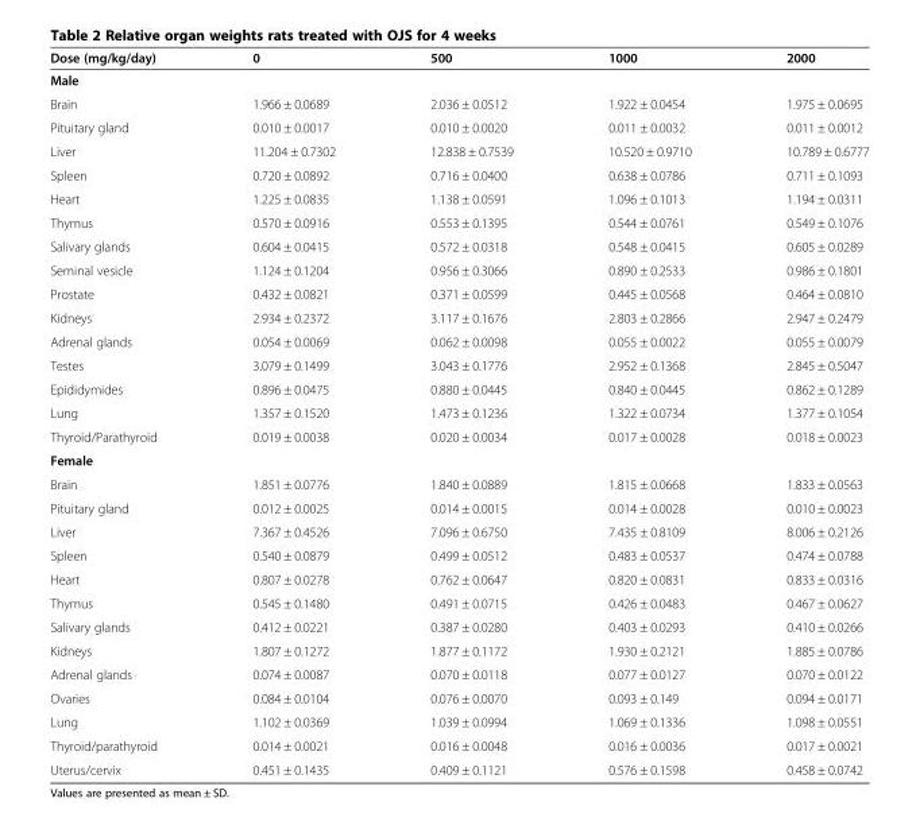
<table><thead><tr><td>Dose (mg/kg/day)</td><td>0</td><td>500</td><td>1000</td><td>2000</td></tr></thead><tbody><tr><td colspan="5">Male</td></tr><tr><td>Brain</td><td>1.966 ± 0.0689</td><td>2.036 ± 0.0512</td><td>1.922 ± 0.0454</td><td>1.975 ± 0.0695</td></tr><tr><td>Pituitary gland</td><td>0.010 ± 0.0017</td><td>0.010 ± 0.0020</td><td>0.011 ± 0.0032</td><td>0.011 ± 0.0012</td></tr><tr><td>Liver</td><td>11.204 ± 0.7302</td><td>12.838 ± 0.7539</td><td>10.520 ± 0.9710</td><td>10.789 ± 0.6777</td></tr><tr><td>Spleen</td><td>0.720 ± 0.0892</td><td>0.716 ± 0.0400</td><td>0.638 ± 0.0786</td><td>0.711 ± 0.1093</td></tr><tr><td>Heart</td><td>1.225 ± 0.0835</td><td>1.138 ± 0.0591</td><td>1.096 ± 0.1013</td><td>1.194 ± 0.0311</td></tr><tr><td>Thymus</td><td>0.570 ± 0.0916</td><td>0.553 ± 0.1395</td><td>0.544 ± 0.0761</td><td>0.549 ± 0.1076</td></tr><tr><td>Salivary glands</td><td>0.604 ± 0.0415</td><td>0.572 ± 0.0318</td><td>0.548 ± 0.0415</td><td>0.605 ± 0.0289</td></tr><tr><td>Seminal vesicle</td><td>1.124 ± 0.1204</td><td>0.956 ± 0.3066</td><td>0.890 ± 0.2533</td><td>0.986 ± 0.1801</td></tr><tr><td>Prostate</td><td>0.432 ± 0.0821</td><td>0.371 ± 0.0599</td><td>0.445 ± 0.0568</td><td>0.464 ± 0.0810</td></tr><tr><td>Kidneys</td><td>2.934 ± 0.2372</td><td>3.117 ± 0.1676</td><td>2.803 ± 0.2866</td><td>2.947 ± 0.2479</td></tr><tr><td>Adrenal glands</td><td>0.054 ± 0.0069</td><td>0.062 ± 0.0098</td><td>0.055 ± 0.0022</td><td>0.055 ± 0.0079</td></tr><tr><td>Testes</td><td>3.079 ± 0.1499</td><td>3.043 ± 0.1776</td><td>2.952 ± 0.1368</td><td>2.845 ± 0.5047</td></tr><tr><td>Epididymides</td><td>0.896 ± 0.0475</td><td>0.880 ± 0.0445</td><td>0.840 ± 0.0445</td><td>0.862 ± 0.1289</td></tr><tr><td>Lung</td><td>1.357 ± 0.1520</td><td>1.473 ± 0.1236</td><td>1.322 ± 0.0734</td><td>1.377 ± 0.1054</td></tr><tr><td>Thyroid/Parathyroid</td><td>0.019 ± 0.0038</td><td>0.020 ± 0.0034</td><td>0.017 ± 0.0028</td><td>0.018 ± 0.0023</td></tr><tr><td colspan="5">Female</td></tr><tr><td>Brain</td><td>1.851 ± 0.0776</td><td>1.840 ± 0.0889</td><td>1.815 ± 0.0668</td><td>1.833 ± 0.0563</td></tr><tr><td>Pituitary gland</td><td>0.012 ± 0.0025</td><td>0.014 ± 0.0015</td><td>0.014 ± 0.0028</td><td>0.010 ± 0.0023</td></tr><tr><td>Liver</td><td>7.367 ± 0.4526</td><td>7.096 ± 0.6750</td><td>7.435 ± 0.8109</td><td>8.006 ± 0.2126</td></tr><tr><td>Spleen</td><td>0.540 ± 0.0879</td><td>0.499 ± 0.0512</td><td>0.483 ± 0.0537</td><td>0.474 ± 0.0788</td></tr><tr><td>Heart</td><td>0.807 ± 0.0278</td><td>0.762 ± 0.0647</td><td>0.820 ± 0.0831</td><td>0.833 ± 0.0316</td></tr><tr><td>Thymus</td><td>0.545 ± 0.1480</td><td>0.491 ± 0.0715</td><td>0.426 ± 0.0483</td><td>0.467 ± 0.0627</td></tr><tr><td>Salivary glands</td><td>0.412 ± 0.0221</td><td>0.387 ± 0.0280</td><td>0.403 ± 0.0293</td><td>0.410 ± 0.0266</td></tr><tr><td>Kidneys</td><td>1.807 ± 0.1272</td><td>1.877 ± 0.1172</td><td>1.930 ± 0.2121</td><td>1.885 ± 0.0786</td></tr><tr><td>Adrenal glands</td><td>0.074 ± 0.0087</td><td>0.070 ± 0.0118</td><td>0.077 ± 0.0127</td><td>0.070 ± 0.0122</td></tr><tr><td>Ovaries</td><td>0.084 ± 0.0104</td><td>0.076 ± 0.0070</td><td>0.093 ± 0.149</td><td>0.094 ± 0.0171</td></tr><tr><td>Lung</td><td>1.102 ± 0.0369</td><td>1.039 ± 0.0994</td><td>1.069 ± 0.1336</td><td>1.098 ± 0.0551</td></tr><tr><td>Thyroid/parathyroid</td><td>0.014 ± 0.0021</td><td>0.016 ± 0.0048</td><td>0.016 ± 0.0036</td><td>0.017 ± 0.0021</td></tr><tr><td>Uterus/cervix</td><td>0.451 ± 0.1435</td><td>0.409 ± 0.1121</td><td>0.576 ± 0.1598</td><td>0.458 ± 0.0742</td></tr></tbody></table>